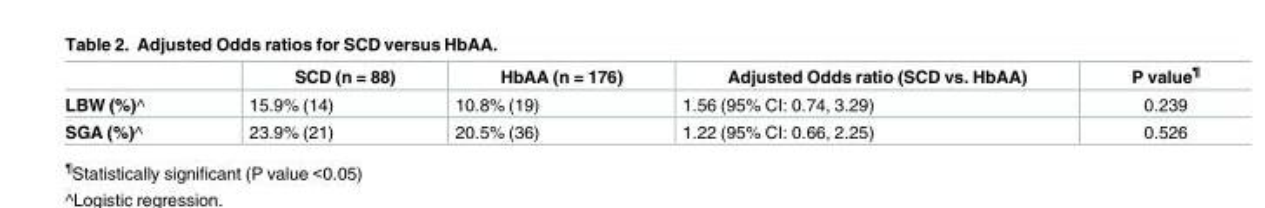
<table><thead><tr><td></td><td>SCD (n = 88)</td><td>HbAA (n = 176)</td><td>Adjusted Odds ratio (SCD vs. HbAA)</td><td>P value<sup>¶</sup></td></tr></thead><tbody><tr><td>LBW (%)^</td><td>15.9% (14)</td><td>10.8% (19)</td><td>1.56 (95% CI: 0.74, 3.29)</td><td>0.239</td></tr><tr><td>SGA (%)^</td><td>23.9% (21)</td><td>20.5% (36)</td><td>1.22 (95% CI: 0.66, 2.25)</td><td>0.526</td></tr></tbody></table>